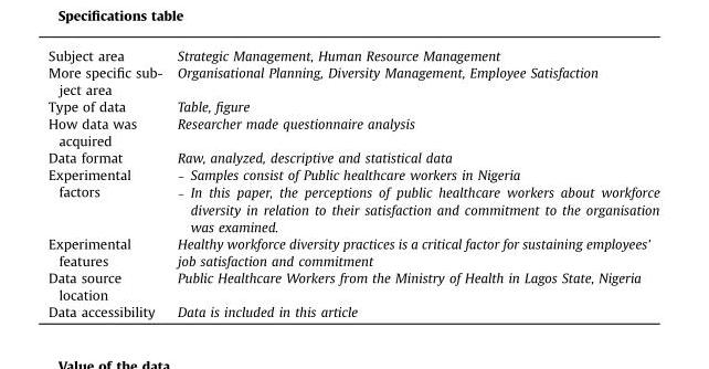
<table><tbody><tr><td>Subject area</td><td>Strategic Management, Human Resource Management</td></tr><tr><td>More specific sub- ject area</td><td>Organisational Planning, Diversity Management, Employee Satisfaction</td></tr><tr><td>Type of data</td><td>Table, figure</td></tr><tr><td>How data was acquired</td><td>Researcher made questionnaire analysis</td></tr><tr><td>Data format</td><td>Raw, analyzed, descriptive and statistical data</td></tr><tr><td>Experimental factors</td><td>– Samples consist of Public healthcare workers in Nigeria – In this paper, the perceptions of public healthcare workers about workforce diversity in relation to their satisfaction and commitment to the organisation was examined.</td></tr><tr><td>Experimental features</td><td>Healthy workforce diversity practices is a critical factor for sustaining employees’ job satisfaction and commitment</td></tr><tr><td>Data source location</td><td>Public Healthcare Workers from the Ministry of Health in Lagos State, Nigeria</td></tr><tr><td>Data accessibility</td><td>Data is included in this article</td></tr></tbody></table>